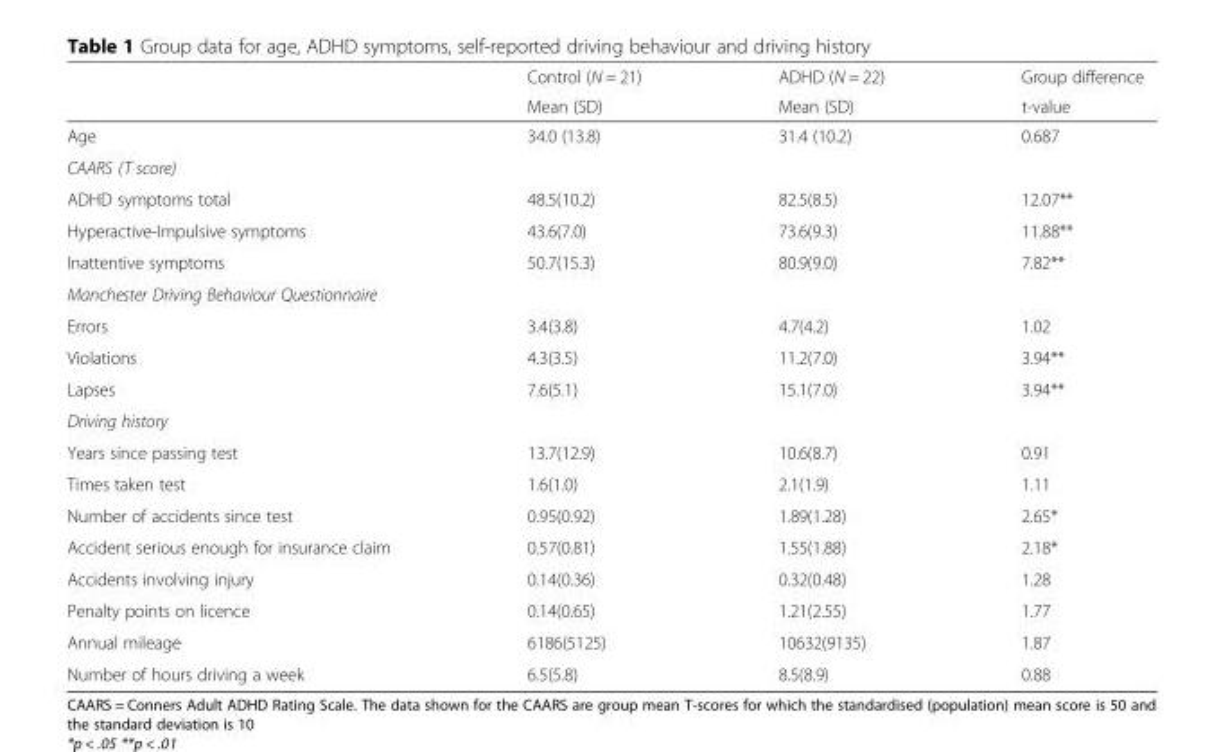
<table><thead><tr><td rowspan="2"></td><td rowspan="2">Control (N = 21) Mean (SD)</td><td rowspan="2">ADHD (N = 22) Mean (SD)</td><td rowspan="2">Group difference t-value</td></tr><tr></tr></thead><tbody><tr><td>Age</td><td>34.0 (13.8)</td><td>31.4 (10.2)</td><td>0.687</td></tr><tr><td colspan="4">CAARS (T score)</td></tr><tr><td>ADHD symptoms total</td><td>48.5(10.2)</td><td>82.5(8.5)</td><td>12.07**</td></tr><tr><td>Hyperactive-Impulsive symptoms</td><td>43.6(7.0)</td><td>73.6(9.3)</td><td>11.88**</td></tr><tr><td>Inattentive symptoms</td><td>50.7(15.3)</td><td>80.9(9.0)</td><td>7.82**</td></tr><tr><td colspan="4">Manchester Driving Behaviour Questionnaire</td></tr><tr><td>Errors</td><td>3.4(3.8)</td><td>4.7(4.2)</td><td>1.02</td></tr><tr><td>Violations</td><td>4.3(3.5)</td><td>11.2(7.0)</td><td>3.94**</td></tr><tr><td>Lapses</td><td>7.6(5.1)</td><td>15.1(7.0)</td><td>3.94**</td></tr><tr><td colspan="4">Driving history</td></tr><tr><td>Years since passing test</td><td>13.7(12.9)</td><td>10.6(8.7)</td><td>0.91</td></tr><tr><td>Times taken test</td><td>1.6(1.0)</td><td>2.1(1.9)</td><td>1.11</td></tr><tr><td>Number of accidents since test</td><td>0.95(0.92)</td><td>1.89(1.28)</td><td>2.65*</td></tr><tr><td>Accident serious enough for insurance claim</td><td>0.57(0.81)</td><td>1.55(1.88)</td><td>2.18*</td></tr><tr><td>Accidents involving injury</td><td>0.14(0.36)</td><td>0.32(0.48)</td><td>1.28</td></tr><tr><td>Penalty points on licence</td><td>0.14(0.65)</td><td>1.21(2.55)</td><td>1.77</td></tr><tr><td>Annual mileage</td><td>6186(5125)</td><td>10632(9135)</td><td>1.87</td></tr><tr><td>Number of hours driving a week</td><td>6.5(5.8)</td><td>8.5(8.9)</td><td>0.88</td></tr></tbody></table>